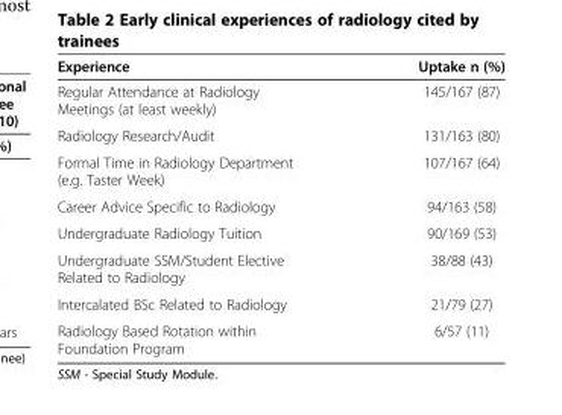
<table><thead><tr><td>Experience</td><td>Uptake n (%)</td></tr></thead><tbody><tr><td>Regular Attendance at Radiology Meetings (at least weekly)</td><td>145/167 (87)</td></tr><tr><td>Radiology Research/Audit</td><td>131/163 (80)</td></tr><tr><td>Formal Time in Radiology Department (e.g. Taster Week)</td><td>107/167 (64)</td></tr><tr><td>Career Advice Specific to Radiology</td><td>94/163 (58)</td></tr><tr><td>Undergraduate Radiology Tuition</td><td>90/169 (53)</td></tr><tr><td>Undergraduate SSM/Student Elective Related to Radiology</td><td>38/88 (43)</td></tr><tr><td>Intercalated BSc Related to Radiology</td><td>21/79 (27)</td></tr><tr><td>Radiology Based Rotation within Foundation Program</td><td>6/57 (11)</td></tr></tbody></table>